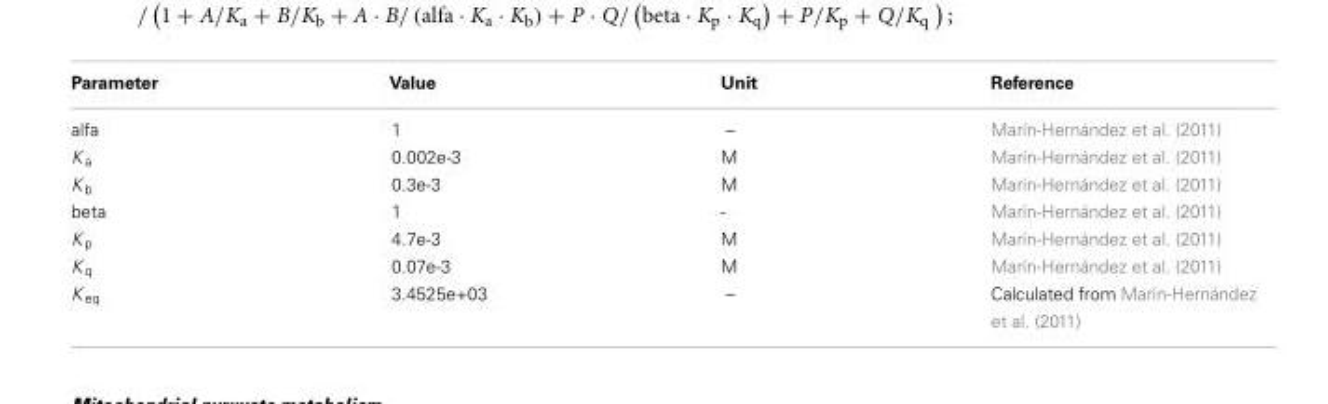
<table><thead><tr><td>Parameter</td><td>Value</td><td>Unit</td><td>Reference</td></tr></thead><tbody><tr><td>alfa</td><td>1</td><td>–</td><td>Marín-Hernández et al. (2011)</td></tr><tr><td>K <sub>a</sub></td><td>0.002e-3</td><td>M</td><td>Marín-Hernández et al. (2011)</td></tr><tr><td>K <sub>b</sub></td><td>0.3e-3</td><td>M</td><td>Marín-Hernández et al. (2011)</td></tr><tr><td>beta</td><td>1</td><td>-</td><td>Marín-Hernández et al. (2011)</td></tr><tr><td>K <sub>p</sub></td><td>4.7e-3</td><td>M</td><td>Marín-Hernández et al. (2011)</td></tr><tr><td>K <sub>q</sub></td><td>0.07e-3</td><td>M</td><td>Marín-Hernández et al. (2011)</td></tr><tr><td>K <sub>eq</sub></td><td>3.4525e+03</td><td>–</td><td>Calculated from Marín-Hernández et al. (2011)</td></tr></tbody></table>